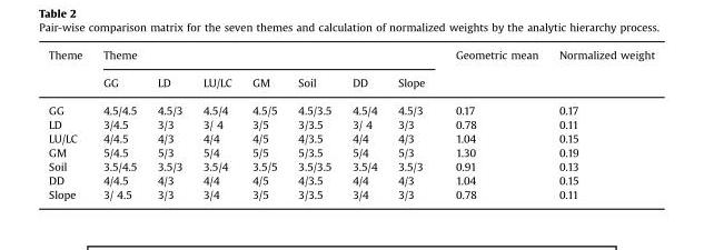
<table><thead><tr><td rowspan="2">Theme</td><td colspan="7">Theme</td><td rowspan="2">Geometric mean</td><td rowspan="2">Normalized weight</td></tr><tr><td>GG</td><td>LD</td><td>LU/LC</td><td>GM</td><td>Soil</td><td>DD</td><td>Slope</td></tr></thead><tbody><tr><td>GG</td><td>4.5/4.5</td><td>4.5/3</td><td>4.5/4</td><td>4.5/5</td><td>4.5/3.5</td><td>4.5/4</td><td>4.5/3</td><td>0.17</td><td>0.17</td></tr><tr><td>LD</td><td>3/4.5</td><td>3/3</td><td>3/ 4</td><td>3/5</td><td>3/3.5</td><td>3/ 4</td><td>3/3</td><td>0.78</td><td>0.11</td></tr><tr><td>LU/LC</td><td>4/4.5</td><td>4/3</td><td>4/4</td><td>4/5</td><td>4/3.5</td><td>4/4</td><td>4/3</td><td>1.04</td><td>0.15</td></tr><tr><td>GM</td><td>5/4.5</td><td>5/3</td><td>5/4</td><td>5/5</td><td>5/3.5</td><td>5/4</td><td>5/3</td><td>1.30</td><td>0.19</td></tr><tr><td>Soil</td><td>3.5/4.5</td><td>3.5/3</td><td>3.5/4</td><td>3.5/5</td><td>3.5/3.5</td><td>3.5/4</td><td>3.5/3</td><td>0.91</td><td>0.13</td></tr><tr><td>DD</td><td>4/4.5</td><td>4/3</td><td>4/4</td><td>4/5</td><td>4/3.5</td><td>4/4</td><td>4/3</td><td>1.04</td><td>0.15</td></tr><tr><td>Slope</td><td>3/ 4.5</td><td>3/3</td><td>3/4</td><td>3/5</td><td>3/3.5</td><td>3/4</td><td>3/3</td><td>0.78</td><td>0.11</td></tr></tbody></table>